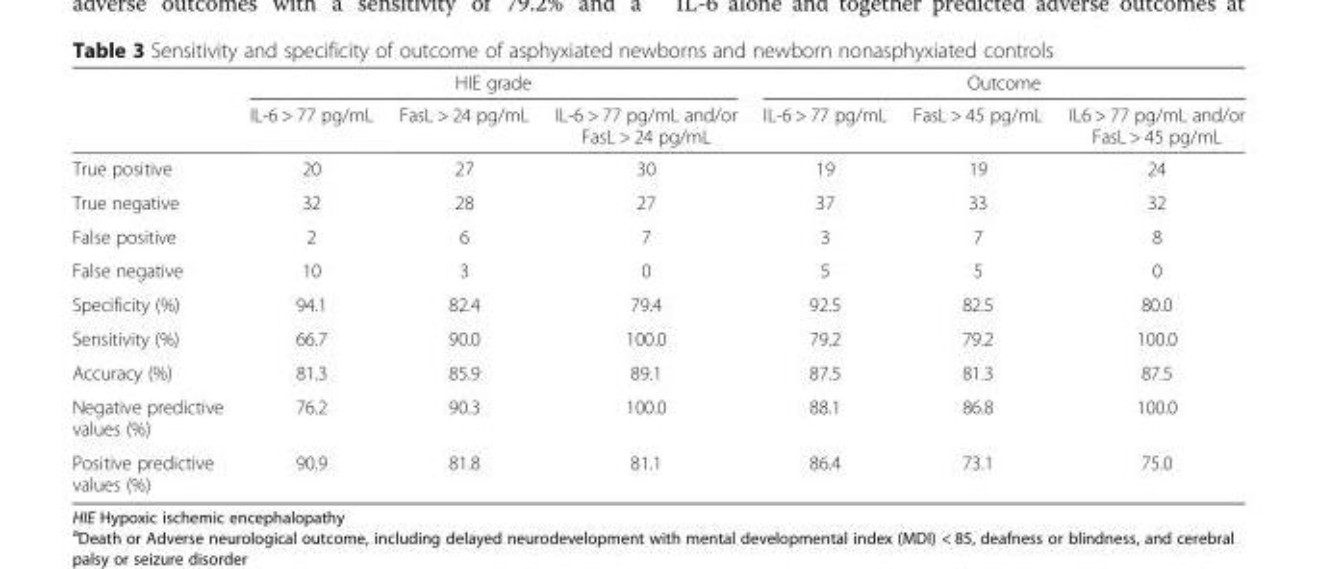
<table><thead><tr><td rowspan="2"></td><td colspan="3">HIE grade</td><td colspan="3">Outcome</td></tr><tr><td>IL-6 &gt; 77 pg/mL</td><td>FasL &gt; 24 pg/mL</td><td>IL-6 &gt; 77 pg/mL and/or FasL &gt; 24 pg/mL</td><td>IL-6 &gt; 77 pg/mL</td><td>FasL &gt; 45 pg/mL</td><td>IL6 &gt; 77 pg/mL and/or FasL &gt; 45 pg/mL</td></tr></thead><tbody><tr><td>True positive</td><td>20</td><td>27</td><td>30</td><td>19</td><td>19</td><td>24</td></tr><tr><td>True negative</td><td>32</td><td>28</td><td>27</td><td>37</td><td>33</td><td>32</td></tr><tr><td>False positive</td><td>2</td><td>6</td><td>7</td><td>3</td><td>7</td><td>8</td></tr><tr><td>False negative</td><td>10</td><td>3</td><td>0</td><td>5</td><td>5</td><td>0</td></tr><tr><td>Specificity (%)</td><td>94.1</td><td>82.4</td><td>79.4</td><td>92.5</td><td>82.5</td><td>80.0</td></tr><tr><td>Sensitivity (%)</td><td>66.7</td><td>90.0</td><td>100.0</td><td>79.2</td><td>79.2</td><td>100.0</td></tr><tr><td>Accuracy (%)</td><td>81.3</td><td>85.9</td><td>89.1</td><td>87.5</td><td>81.3</td><td>87.5</td></tr><tr><td>Negative predictive values (%)</td><td>76.2</td><td>90.3</td><td>100.0</td><td>88.1</td><td>86.8</td><td>100.0</td></tr><tr><td>Positive predictive values (%)</td><td>90.9</td><td>81.8</td><td>81.1</td><td>86.4</td><td>73.1</td><td>75.0</td></tr></tbody></table>